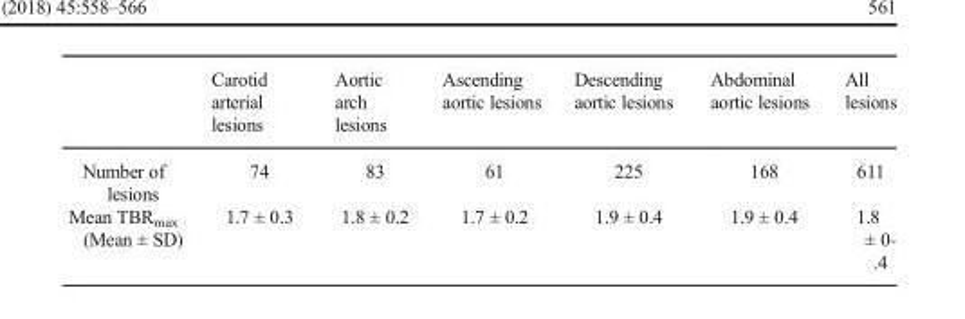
<table><thead><tr><td></td><td>Carotid arterial lesions</td><td>Aortic arch lesions</td><td>Ascending aortic lesions</td><td>Descending aortic lesions</td><td>Abdominal aortic lesions</td><td>All lesions</td></tr></thead><tbody><tr><td>Number of lesions</td><td>74</td><td>83</td><td>61</td><td>225</td><td>168</td><td>611</td></tr><tr><td>Mean TBR<sub>max</sub> (Mean ± SD)</td><td>1.7 ± 0.3</td><td>1.8 ± 0.2</td><td>1.7 ± 0.2</td><td>1.9 ± 0.4</td><td>1.9 ± 0.4</td><td>1.8 ± 0-</td></tr></tbody></table>